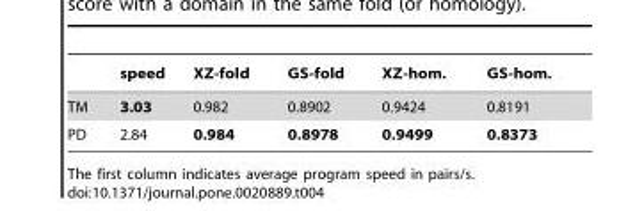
<table><thead><tr><td></td><td>speed</td><td>XZ-fold</td><td>GS-fold</td><td>XZ-hom.</td><td>GS-hom.</td></tr></thead><tbody><tr><td>TM</td><td>3.03</td><td>0.982</td><td>0.8902</td><td>0.9424</td><td>0.8191</td></tr><tr><td>PD</td><td>2.84</td><td>0.984</td><td>0.8978</td><td>0.9499</td><td>0.8373</td></tr></tbody></table>